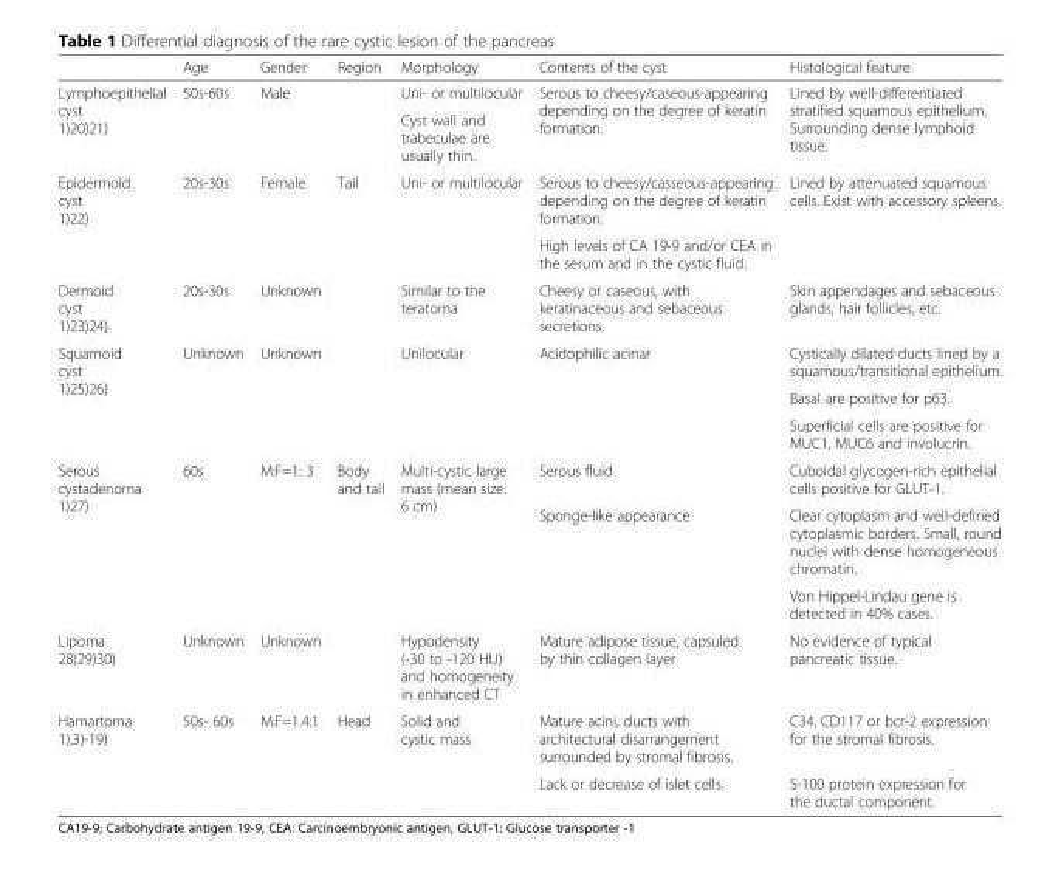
<table><thead><tr><td></td><td>Age</td><td>Gender</td><td>Region</td><td>Morphology</td><td>Contents of the cyst</td><td>Histological feature</td></tr></thead><tbody><tr><td rowspan="2">Lymphoepithelial cyst 1)20)21)</td><td rowspan="2">50s-60s</td><td rowspan="2">Male</td><td rowspan="2"></td><td>Uni- or multilocular</td><td rowspan="2">Serous to cheesy/caseous-appearing depending on the degree of keratin formation.</td><td rowspan="2">Lined by well-differentiated stratified squamous epithelium. Surrounding dense lymphoid tissue.</td></tr><tr><td>Cyst wall and trabeculae are usually thin.</td></tr><tr><td rowspan="2">Epidermoid cyst 1)22)</td><td rowspan="2">20s-30s</td><td rowspan="2">Female</td><td rowspan="2">Tail</td><td rowspan="2">Uni- or multilocular</td><td>Serous to cheesy/casseous-appearing depending on the degree of keratin formation.</td><td rowspan="2">Lined by attenuated squamous cells. Exist with accessory spleens.</td></tr><tr><td>High levels of CA 19-9 and/or CEA in the serum and in the cystic fluid.</td></tr><tr><td>Dermoid cyst 1)23)24)</td><td>20s-30s</td><td>Unknown</td><td></td><td>Similar to the teratoma</td><td>Cheesy or caseous, with keratinaceous and sebaceous secretions.</td><td>Skin appendages and sebaceous glands, hair follicles, etc.</td></tr><tr><td rowspan="3">Squamoid cyst 1)25)26)</td><td rowspan="3">Unknown</td><td rowspan="3">Unknown</td><td rowspan="3"></td><td rowspan="3">Unilocular</td><td rowspan="3">Acidophilic acinar</td><td>Cystically dilated ducts lined by a squamous/transitional epithelium.</td></tr><tr><td>Basal are positive for p63.</td></tr><tr><td>Superficial cells are positive for MUC1, MUC6 and involucrin.</td></tr><tr><td rowspan="3">Serous cystadenoma 1)27)</td><td rowspan="3">60s</td><td rowspan="3">M:F=1: 3</td><td rowspan="3">Body and tail</td><td rowspan="3">Multi-cystic large mass (mean size: 6 cm)</td><td>Serous fluid</td><td>Cuboidal glycogen-rich epithelial cells positive for GLUT-1.</td></tr><tr><td rowspan="2">Sponge-like appearance</td><td>Clear cytoplasm and well-defined cytoplasmic borders. Small, round nuclei with dense homogeneous chromatin.</td></tr><tr><td>Von Hippel-Lindau gene is detected in 40% cases.</td></tr><tr><td>Lipoma 28)29)30)</td><td>Unknown</td><td>Unknown</td><td></td><td>Hypodensity (-30 to -120 HU) and homogeneity in enhanced CT</td><td>Mature adipose tissue, capsuled by thin collagen layer</td><td>No evidence of typical pancreatic tissue.</td></tr><tr><td rowspan="2">Hamartoma 1),3)-19)</td><td rowspan="2">50s- 60s</td><td rowspan="2">M:F=1.4:1</td><td rowspan="2">Head</td><td rowspan="2">Solid and cystic mass</td><td>Mature acini, ducts with architectural disarrangement surrounded by stromal fibrosis.</td><td>C34, CD117 or bcr-2 expression for the stromal fibrosis.</td></tr><tr><td>Lack or decrease of islet cells.</td><td>S-100 protein expression for the ductal component.</td></tr></tbody></table>